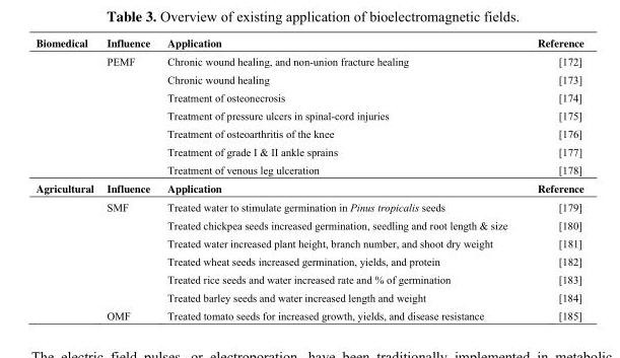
<table><thead><tr><td>Biomedical</td><td>Influence</td><td>Application</td><td>Reference</td></tr></thead><tbody><tr><td rowspan="7"></td><td rowspan="7">PEMF</td><td>Chronic wound healing, and non-union fracture healing</td><td>[172]</td></tr><tr><td>Chronic wound healing</td><td>[173]</td></tr><tr><td>Treatment of osteonecrosis</td><td>[174]</td></tr><tr><td>Treatment of pressure ulcers in spinal-cord injuries</td><td>[175]</td></tr><tr><td>Treatment of osteoarthritis of the knee</td><td>[176]</td></tr><tr><td>Treatment of grade I &amp; II ankle sprains</td><td>[177]</td></tr><tr><td>Treatment of venous leg ulceration</td><td>[178]</td></tr><tr><td rowspan="8">Agricultural</td><td>Influence</td><td>Application</td><td>Reference</td></tr><tr><td rowspan="6">SMF</td><td>Treated water to stimulate germination in Pinus tropicalis seeds</td><td>[179]</td></tr><tr><td>Treated chickpea seeds increased germination, seedling and root length &amp; size</td><td>[180]</td></tr><tr><td>Treated water increased plant height, branch number, and shoot dry weight</td><td>[181]</td></tr><tr><td>Treated wheat seeds increased germination, yields, and protein</td><td>[182]</td></tr><tr><td>Treated rice seeds and water increased rate and % of germination</td><td>[183]</td></tr><tr><td>Treated barley seeds and water increased length and weight</td><td>[184]</td></tr><tr><td>OMF</td><td>Treated tomato seeds for increased growth, yields, and disease resistance</td><td>[185]</td></tr></tbody></table>